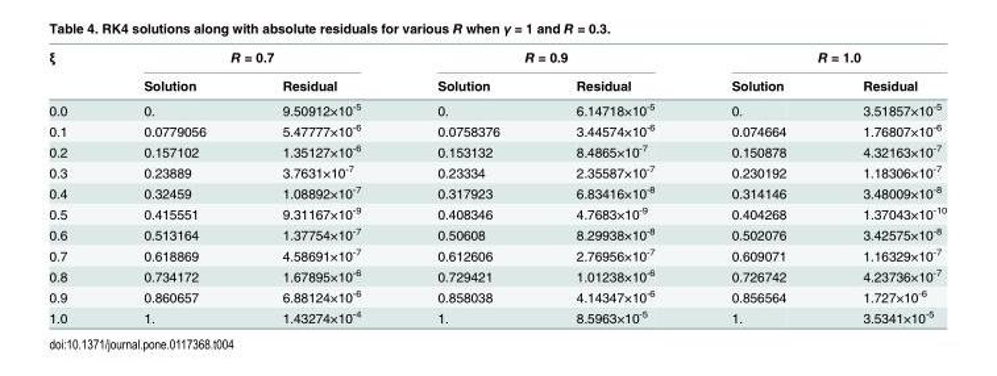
<table><thead><tr><td rowspan="2">ξ</td><td colspan="2">R = 0.7</td><td colspan="2">R = 0.9</td><td colspan="2">R = 1.0</td></tr><tr><td>Solution</td><td>Residual</td><td>Solution</td><td>Residual</td><td>Solution</td><td>Residual</td></tr></thead><tbody><tr><td>0.0</td><td>0.</td><td>9.50912×10<sup>-5</sup></td><td>0.</td><td>6.14718×10<sup>-5</sup></td><td>0.</td><td>3.51857×10<sup>-5</sup></td></tr><tr><td>0.1</td><td>0.0779056</td><td>5.47777×10<sup>-6</sup></td><td>0.0758376</td><td>3.44574×10<sup>-6</sup></td><td>0.074664</td><td>1.76807×10<sup>-6</sup></td></tr><tr><td>0.2</td><td>0.157102</td><td>1.35127×10<sup>-6</sup></td><td>0.153132</td><td>8.4865×10<sup>-7</sup></td><td>0.150878</td><td>4.32163×10<sup>-7</sup></td></tr><tr><td>0.3</td><td>0.23889</td><td>3.7631×10<sup>-7</sup></td><td>0.23334</td><td>2.35587×10<sup>-7</sup></td><td>0.230192</td><td>1.18306×10<sup>-7</sup></td></tr><tr><td>0.4</td><td>0.32459</td><td>1.08892×10<sup>-7</sup></td><td>0.317923</td><td>6.83416×10<sup>-8</sup></td><td>0.314146</td><td>3.48009×10<sup>-8</sup></td></tr><tr><td>0.5</td><td>0.415551</td><td>9.31167×10<sup>-9</sup></td><td>0.408346</td><td>4.7683×10<sup>-9</sup></td><td>0.404268</td><td>1.37043×10<sup>-10</sup></td></tr><tr><td>0.6</td><td>0.513164</td><td>1.37754×10<sup>-7</sup></td><td>0.50608</td><td>8.29938×10<sup>-8</sup></td><td>0.502076</td><td>3.42575×10<sup>-8</sup></td></tr><tr><td>0.7</td><td>0.618869</td><td>4.58691×10<sup>-7</sup></td><td>0.612606</td><td>2.76956×10<sup>-7</sup></td><td>0.609071</td><td>1.16329×10<sup>-7</sup></td></tr><tr><td>0.8</td><td>0.734172</td><td>1.67895×10<sup>-6</sup></td><td>0.729421</td><td>1.01238×10<sup>-6</sup></td><td>0.726742</td><td>4.23736×10<sup>-7</sup></td></tr><tr><td>0.9</td><td>0.860657</td><td>6.88124×10<sup>-6</sup></td><td>0.858038</td><td>4.14347×10<sup>-6</sup></td><td>0.856564</td><td>1.727×10<sup>-6</sup></td></tr><tr><td>1.0</td><td>1.</td><td>1.43274×10<sup>-4</sup></td><td>1.</td><td>8.5963×10<sup>-5</sup></td><td>1.</td><td>3.5341×10<sup>-5</sup></td></tr></tbody></table>